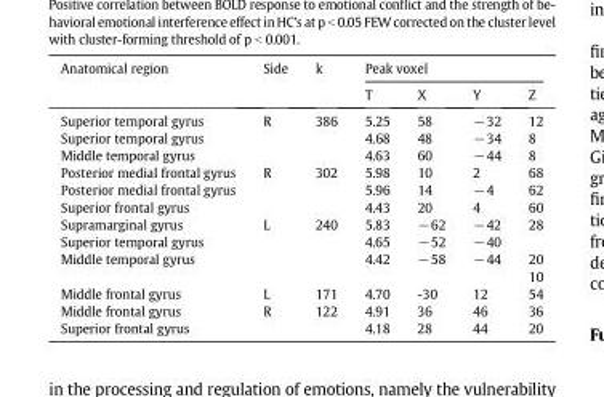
<table><thead><tr><td rowspan="2">Anatomical region</td><td rowspan="2">Side</td><td rowspan="2">k</td><td colspan="4">Peak voxel</td></tr><tr><td>T</td><td>X</td><td>Y</td><td>Z</td></tr></thead><tbody><tr><td>Superior temporal gyrus</td><td rowspan="3">R</td><td>386</td><td>5.25</td><td>58</td><td>−32</td><td>12</td></tr><tr><td>Superior temporal gyrus</td><td></td><td>4.68</td><td>48</td><td>−34</td><td>8</td></tr><tr><td>Middle temporal gyrus</td><td></td><td>4.63</td><td>60</td><td>−44</td><td>8</td></tr><tr><td>Posterior medial frontal gyrus</td><td rowspan="3">R</td><td>302</td><td>5.98</td><td>10</td><td>2</td><td>68</td></tr><tr><td>Posterior medial frontal gyrus</td><td></td><td>5.96</td><td>14</td><td>−4</td><td>62</td></tr><tr><td>Superior frontal gyrus</td><td></td><td>4.43</td><td>20</td><td>4</td><td>60</td></tr><tr><td>Supramarginal gyrus</td><td rowspan="3">L</td><td>240</td><td>5.83</td><td>−62</td><td>−42</td><td>28</td></tr><tr><td>Superior temporal gyrus</td><td></td><td>4.65</td><td>−52</td><td>−40</td><td></td></tr><tr><td>Middle temporal gyrus</td><td></td><td>4.42</td><td>−58</td><td>−44</td><td>20 10</td></tr><tr><td>Middle frontal gyrus</td><td>L</td><td>171</td><td>4.70</td><td>-30</td><td>12</td><td>54</td></tr><tr><td>Middle frontal gyrus</td><td rowspan="2">R</td><td>122</td><td>4.91</td><td>36</td><td>46</td><td>36</td></tr><tr><td>Superior frontal gyrus</td><td></td><td>4.18</td><td>28</td><td>44</td><td>20</td></tr></tbody></table>